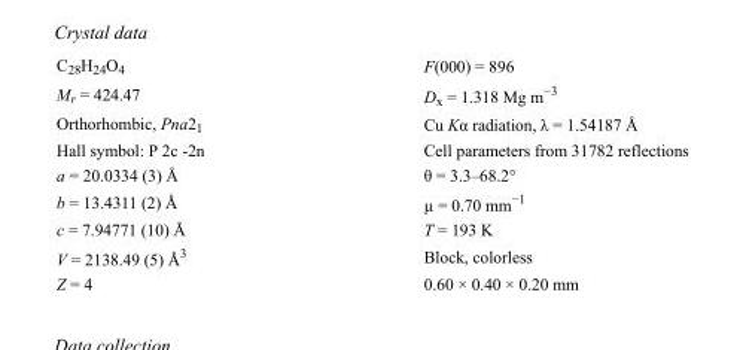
<table><tbody><tr><td>C<sub>28</sub>H<sub>24</sub>O<sub>4</sub></td><td>F(000) = 896</td></tr><tr><td>M<sub>r</sub> = 424.47</td><td>D<sub>x</sub> = 1.318 Mg m<sup>−3</sup></td></tr><tr><td>Orthorhombic, Pna2<sub>1</sub></td><td>Cu Kα radiation, λ = 1.54187 Å</td></tr><tr><td>Hall symbol: P 2c -2n</td><td>Cell parameters from 31782 reflections</td></tr><tr><td>a = 20.0334 (3) Å</td><td>θ = 3.3–68.2°</td></tr><tr><td>b = 13.4311 (2) Å</td><td>µ = 0.70 mm<sup>−1</sup></td></tr><tr><td>c = 7.94771 (10) Å</td><td>T = 193 K</td></tr><tr><td>V = 2138.49 (5) Å<sup>3</sup></td><td>Block, colorless</td></tr><tr><td>Z = 4</td><td>0.60 × 0.40 × 0.20 mm</td></tr></tbody></table>